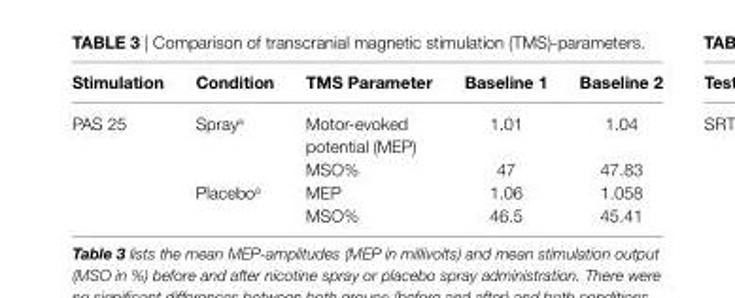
<table><thead><tr><td>stimulation</td><td>condition</td><td>TMs Parameter</td><td>baseline 1</td><td>baseline 2</td></tr></thead><tbody><tr><td rowspan="4">PAS 25</td><td>Spray<sup>a</sup></td><td>Motor-evoked potential (MEP)</td><td>1.01</td><td>1.04</td></tr><tr><td></td><td>MSO%</td><td>47</td><td>47.83</td></tr><tr><td>Placebo<sup>a</sup></td><td>MEP</td><td>1.06</td><td>1.058</td></tr><tr><td></td><td>MSO%</td><td>46.5</td><td>45.41</td></tr></tbody></table>